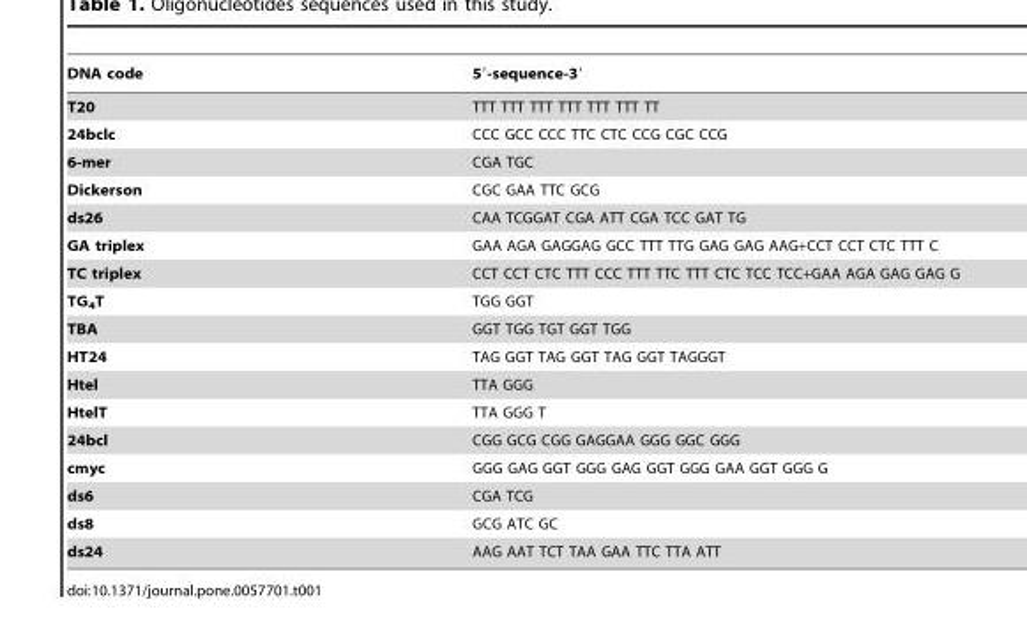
<table><thead><tr><td>DNA code</td><td>5′-sequence-3′</td></tr></thead><tbody><tr><td>T20</td><td>TTT TTT TTT TTT TTT TTT TT</td></tr><tr><td>24bclc</td><td>CCC GCC CCC TTC CTC CCG CGC CCG</td></tr><tr><td>6-mer</td><td>CGA TGC</td></tr><tr><td>Dickerson</td><td>CGC GAA TTC GCG</td></tr><tr><td>ds26</td><td>CAA TCGGAT CGA ATT CGA TCC GAT TG</td></tr><tr><td>GA triplex</td><td>GAA AGA GAGGAG GCC TTT TTG GAG GAG AAG+CCT CCT CTC TTT C</td></tr><tr><td>TC triplex</td><td>CCT CCT CTC TTT CCC TTT TTC TTT CTC TCC TCC+GAA AGA GAG GAG G</td></tr><tr><td>TG<sub>4</sub>T</td><td>TGG GGT</td></tr><tr><td>TBA</td><td>GGT TGG TGT GGT TGG</td></tr><tr><td>HT24</td><td>TAG GGT TAG GGT TAG GGT TAGGGT</td></tr><tr><td>Htel</td><td>TTA GGG</td></tr><tr><td>HtelT</td><td>TTA GGG T</td></tr><tr><td>24bcl</td><td>CGG GCG CGG GAGGAA GGG GGC GGG</td></tr><tr><td>cmyc</td><td>GGG GAG GGT GGG GAG GGT GGG GAA GGT GGG G</td></tr><tr><td>ds6</td><td>CGA TCG</td></tr><tr><td>ds8</td><td>GCG ATC GC</td></tr><tr><td>ds24</td><td>AAG AAT TCT TAA GAA TTC TTA ATT</td></tr></tbody></table>